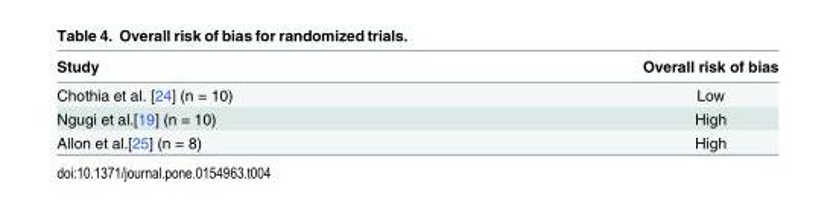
<table><thead><tr><td>Study</td><td>Overall risk of bias</td></tr></thead><tbody><tr><td>Chothia et al. [24] (n = 10)</td><td>Low</td></tr><tr><td>Ngugi et al.[19] (n = 10)</td><td>High</td></tr><tr><td>Allon et al.[25] (n = 8)</td><td>High</td></tr></tbody></table>